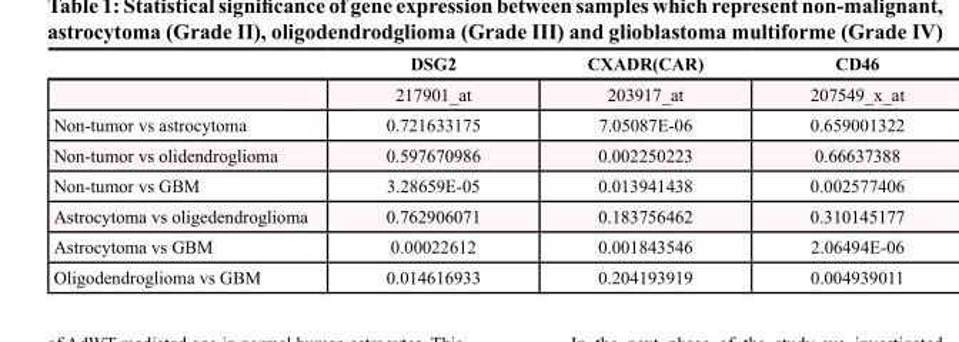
<table><thead><tr><td></td><td>DSG2</td><td>CXADR(CAR)</td><td>CD46</td></tr></thead><tbody><tr><td></td><td>217901_at</td><td>203917_at</td><td>207549_x_at</td></tr><tr><td>Non-tumor vs astrocytoma</td><td>0.721633175</td><td>7.05087E-06</td><td>0.659001322</td></tr><tr><td>Non-tumor vs olidendroglioma</td><td>0.597670986</td><td>0.002250223</td><td>0.66637388</td></tr><tr><td>Non-tumor vs GBM</td><td>3.28659E-05</td><td>0.013941438</td><td>0.002577406</td></tr><tr><td>Astrocytoma vs oligedendroglioma</td><td>0.762906071</td><td>0.183756462</td><td>0.310145177</td></tr><tr><td>Astrocytoma vs GBM</td><td>0.00022612</td><td>0.001843546</td><td>2.06494E-06</td></tr><tr><td>Oligodendroglioma vs GBM</td><td>0.014616933</td><td>0.204193919</td><td>0.004939011</td></tr></tbody></table>